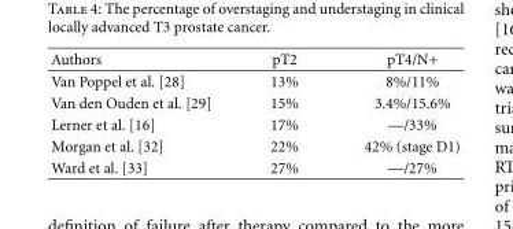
<table><thead><tr><td>Authors</td><td>pT2</td><td>pT4/N+</td></tr></thead><tbody><tr><td>Van Poppel et al. [28]</td><td>13%</td><td>8%/11%</td></tr><tr><td>Van den Ouden et al. [29]</td><td>15%</td><td>3.4%/15.6%</td></tr><tr><td>Lerner et al. [16]</td><td>17%</td><td>—/33%</td></tr><tr><td>Morgan et al. [32]</td><td>22%</td><td>42% (stage D1)</td></tr><tr><td>Ward et al. [33]</td><td>27%</td><td>—/27%</td></tr></tbody></table>